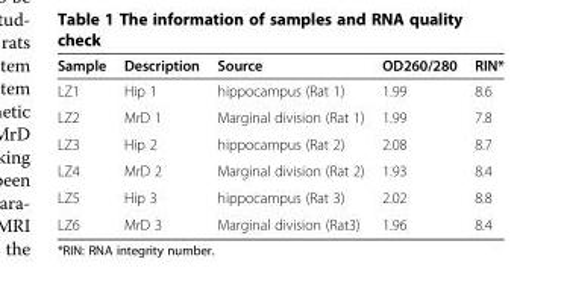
<table><thead><tr><td>Sample</td><td>Description</td><td>Source</td><td>OD260/280</td><td>RIN*</td></tr></thead><tbody><tr><td>LZ1</td><td>Hip 1</td><td>hippocampus (Rat 1)</td><td>1.99</td><td>8.6</td></tr><tr><td>LZ2</td><td>MrD 1</td><td>Marginal division (Rat 1)</td><td>1.99</td><td>7.8</td></tr><tr><td>LZ3</td><td>Hip 2</td><td>hippocampus (Rat 2)</td><td>2.08</td><td>8.7</td></tr><tr><td>LZ4</td><td>MrD 2</td><td>Marginal division (Rat 2)</td><td>1.93</td><td>8.4</td></tr><tr><td>LZ5</td><td>Hip 3</td><td>hippocampus (Rat 3)</td><td>2.02</td><td>8.8</td></tr><tr><td>LZ6</td><td>MrD 3</td><td>Marginal division (Rat3)</td><td>1.96</td><td>8.4</td></tr></tbody></table>